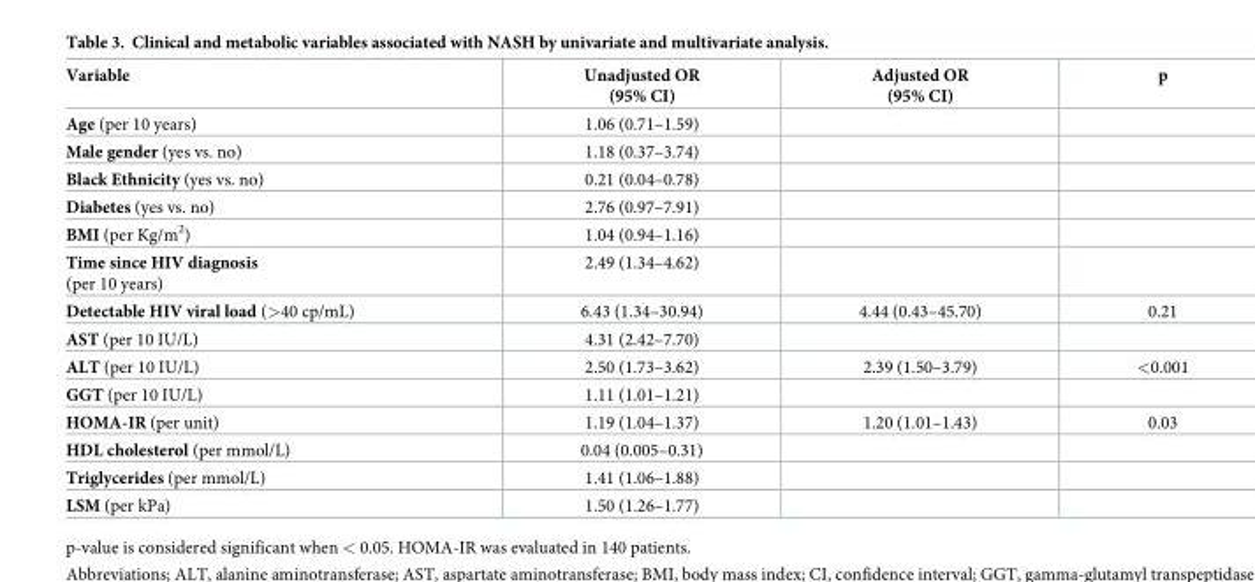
<table><thead><tr><td>Variable</td><td>Unadjusted OR (95% CI)</td><td>Adjusted OR (95% CI)</td><td>p</td></tr></thead><tbody><tr><td>Age (per 10 years)</td><td>1.06 (0.71–1.59)</td><td></td><td></td></tr><tr><td>Male gender (yes vs. no)</td><td>1.18 (0.37–3.74)</td><td></td><td></td></tr><tr><td>Black Ethnicity (yes vs. no)</td><td>0.21 (0.04–0.78)</td><td></td><td></td></tr><tr><td>Diabetes (yes vs. no)</td><td>2.76 (0.97–7.91)</td><td></td><td></td></tr><tr><td>BMI (per Kg/m<sup>2</sup>)</td><td>1.04 (0.94–1.16)</td><td></td><td></td></tr><tr><td>Time since HIV diagnosis (per 10 years)</td><td>2.49 (1.34–4.62)</td><td></td><td></td></tr><tr><td>Detectable HIV viral load (&gt;40 cp/mL)</td><td>6.43 (1.34–30.94)</td><td>4.44 (0.43–45.70)</td><td>0.21</td></tr><tr><td>AST (per 10 IU/L)</td><td>4.31 (2.42–7.70)</td><td></td><td></td></tr><tr><td>ALT (per 10 IU/L)</td><td>2.50 (1.73–3.62)</td><td>2.39 (1.50–3.79)</td><td>&lt;0.001</td></tr><tr><td>GGT (per 10 IU/L)</td><td>1.11 (1.01–1.21)</td><td></td><td></td></tr><tr><td>HOMA-IR (per unit)</td><td>1.19 (1.04–1.37)</td><td>1.20 (1.01–1.43)</td><td>0.03</td></tr><tr><td>HDL cholesterol (per mmol/L)</td><td>0.04 (0.005–0.31)</td><td></td><td></td></tr><tr><td>Triglycerides (per mmol/L)</td><td>1.41 (1.06–1.88)</td><td></td><td></td></tr><tr><td>LSM (per kPa)</td><td>1.50 (1.26–1.77)</td><td></td><td></td></tr></tbody></table>